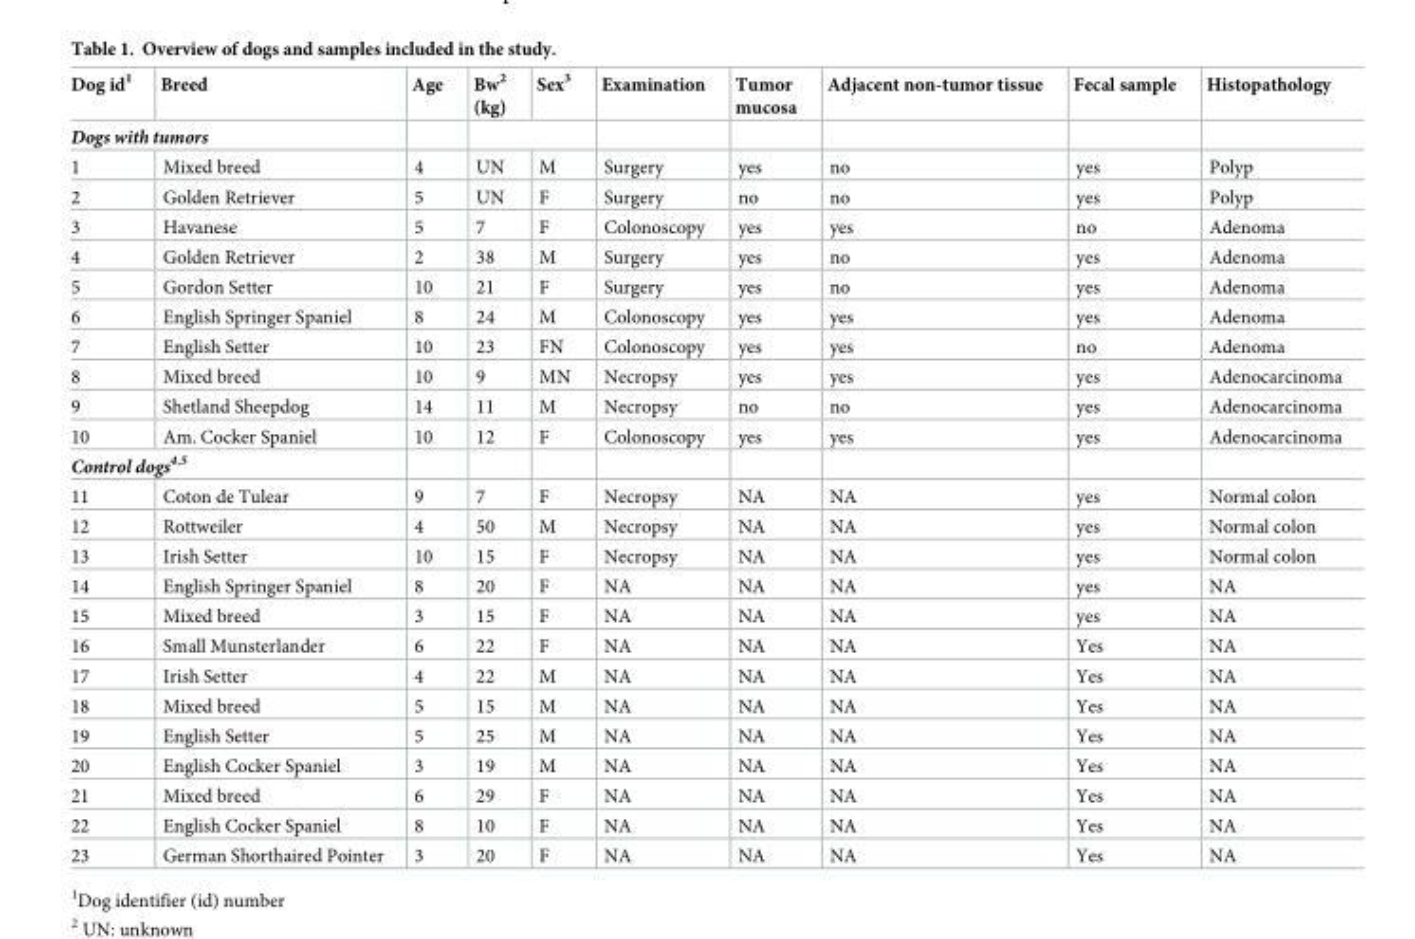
<table><thead><tr><td>Dog id<sup>1</sup></td><td>Breed</td><td>Age</td><td>Bw<sup>2</sup> (kg)</td><td>Sex<sup>3</sup></td><td>Examination</td><td>Tumor mucosa</td><td>Adjacent non-tumor tissue</td><td>Fecal sample</td><td>Histopathology</td></tr></thead><tbody><tr><td colspan="10">Dogs with tumors</td></tr><tr><td>1</td><td>Mixed breed</td><td>4</td><td>UN</td><td>M</td><td>Surgery</td><td>yes</td><td>no</td><td>yes</td><td>Polyp</td></tr><tr><td>2</td><td>Golden Retriever</td><td>5</td><td>UN</td><td>F</td><td>Surgery</td><td>no</td><td>no</td><td>yes</td><td>Polyp</td></tr><tr><td>3</td><td>Havanese</td><td>5</td><td>7</td><td>F</td><td>Colonoscopy</td><td>yes</td><td>yes</td><td>no</td><td>Adenoma</td></tr><tr><td>4</td><td>Golden Retriever</td><td>2</td><td>38</td><td>M</td><td>Surgery</td><td>yes</td><td>no</td><td>yes</td><td>Adenoma</td></tr><tr><td>5</td><td>Gordon Setter</td><td>10</td><td>21</td><td>F</td><td>Surgery</td><td>yes</td><td>no</td><td>yes</td><td>Adenoma</td></tr><tr><td>6</td><td>English Springer Spaniel</td><td>8</td><td>24</td><td>M</td><td>Colonoscopy</td><td>yes</td><td>yes</td><td>yes</td><td>Adenoma</td></tr><tr><td>7</td><td>English Setter</td><td>10</td><td>23</td><td>FN</td><td>Colonoscopy</td><td>yes</td><td>yes</td><td>no</td><td>Adenoma</td></tr><tr><td>8</td><td>Mixed breed</td><td>10</td><td>9</td><td>MN</td><td>Necropsy</td><td>yes</td><td>yes</td><td>yes</td><td>Adenocarcinoma</td></tr><tr><td>9</td><td>Shetland Sheepdog</td><td>14</td><td>11</td><td>M</td><td>Necropsy</td><td>no</td><td>no</td><td>yes</td><td>Adenocarcinoma</td></tr><tr><td>10</td><td>Am. Cocker Spaniel</td><td>10</td><td>12</td><td>F</td><td>Colonoscopy</td><td>yes</td><td>yes</td><td>yes</td><td>Adenocarcinoma</td></tr><tr><td colspan="10">Control dogs<sup>4,5</sup></td></tr><tr><td>11</td><td>Coton de Tulear</td><td>9</td><td>7</td><td>F</td><td>Necropsy</td><td>NA</td><td>NA</td><td>yes</td><td>Normal colon</td></tr><tr><td>12</td><td>Rottweiler</td><td>4</td><td>50</td><td>M</td><td>Necropsy</td><td>NA</td><td>NA</td><td>yes</td><td>Normal colon</td></tr><tr><td>13</td><td>Irish Setter</td><td>10</td><td>15</td><td>F</td><td>Necropsy</td><td>NA</td><td>NA</td><td>yes</td><td>Normal colon</td></tr><tr><td>14</td><td>English Springer Spaniel</td><td>8</td><td>20</td><td>F</td><td>NA</td><td>NA</td><td>NA</td><td>yes</td><td>NA</td></tr><tr><td>15</td><td>Mixed breed</td><td>3</td><td>15</td><td>F</td><td>NA</td><td>NA</td><td>NA</td><td>yes</td><td>NA</td></tr><tr><td>16</td><td>Small Munsterlander</td><td>6</td><td>22</td><td>F</td><td>NA</td><td>NA</td><td>NA</td><td>Yes</td><td>NA</td></tr><tr><td>17</td><td>Irish Setter</td><td>4</td><td>22</td><td>M</td><td>NA</td><td>NA</td><td>NA</td><td>Yes</td><td>NA</td></tr><tr><td>18</td><td>Mixed breed</td><td>5</td><td>15</td><td>M</td><td>NA</td><td>NA</td><td>NA</td><td>Yes</td><td>NA</td></tr><tr><td>19</td><td>English Setter</td><td>5</td><td>25</td><td>M</td><td>NA</td><td>NA</td><td>NA</td><td>Yes</td><td>NA</td></tr><tr><td>20</td><td>English Cocker Spaniel</td><td>3</td><td>19</td><td>M</td><td>NA</td><td>NA</td><td>NA</td><td>Yes</td><td>NA</td></tr><tr><td>21</td><td>Mixed breed</td><td>6</td><td>29</td><td>F</td><td>NA</td><td>NA</td><td>NA</td><td>Yes</td><td>NA</td></tr><tr><td>22</td><td>English Cocker Spaniel</td><td>8</td><td>10</td><td>F</td><td>NA</td><td>NA</td><td>NA</td><td>Yes</td><td>NA</td></tr><tr><td>23</td><td>German Shorthaired Pointer</td><td>3</td><td>20</td><td>F</td><td>NA</td><td>NA</td><td>NA</td><td>Yes</td><td>NA</td></tr></tbody></table>